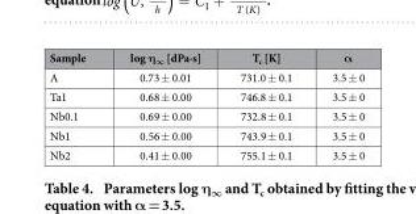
<table><thead><tr><td>Sample</td><td>log η<sub>∞</sub> [dPa·s]</td><td>T<sub>c</sub> [K]</td><td>α</td></tr></thead><tbody><tr><td>A</td><td>0.73 ± 0.01</td><td>731.0 ± 0.1</td><td>3.5 ± 0</td></tr><tr><td>Ta1</td><td>0.68 ± 0.00</td><td>746.8 ± 0.1</td><td>3.5 ± 0</td></tr><tr><td>Nb0.1</td><td>0.69 ± 0.00</td><td>732.8 ± 0.1</td><td>3.5 ± 0</td></tr><tr><td>Nb1</td><td>0.56 ± 0.00</td><td>743.9 ± 0.1</td><td>3.5 ± 0</td></tr><tr><td>Nb2</td><td>0.41 ± 0.00</td><td>755.1 ± 0.1</td><td>3.5 ± 0</td></tr></tbody></table>